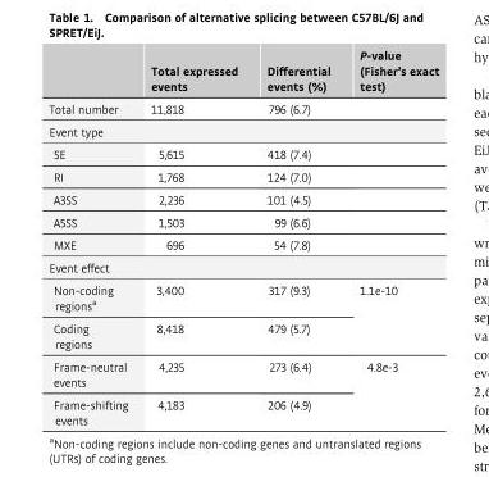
<table><thead><tr><td></td><td>Total expressed events</td><td>Differential events (%)</td><td>P-value (Fisher’s exact test)</td></tr></thead><tbody><tr><td>Total number</td><td>11,818</td><td>796 (6.7)</td><td></td></tr><tr><td colspan="4">Event type</td></tr><tr><td>SE</td><td>5,615</td><td>418 (7.4)</td><td></td></tr><tr><td>RI</td><td>1,768</td><td>124 (7.0)</td><td></td></tr><tr><td>A3SS</td><td>2,236</td><td>101 (4.5)</td><td></td></tr><tr><td>A5SS</td><td>1,503</td><td>99 (6.6)</td><td></td></tr><tr><td>MXE</td><td>696</td><td>54 (7.8)</td><td></td></tr><tr><td colspan="4">Event effect</td></tr><tr><td>Non-coding regions<sup>a</sup></td><td>3,400</td><td>317 (9.3)</td><td rowspan="2">1.1e-10</td></tr><tr><td>Coding regions</td><td>8,418</td><td>479 (5.7)</td></tr><tr><td>Frame-neutral events</td><td>4,235</td><td>273 (6.4)</td><td rowspan="2">4.8e-3</td></tr><tr><td>Frame-shifting events</td><td>4,183</td><td>206 (4.9)</td></tr></tbody></table>